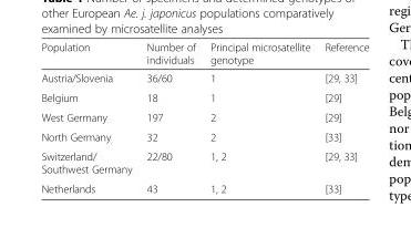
<table><thead><tr><td>Population</td><td>Number of individuals</td><td>Principal microsatellite genotype</td><td>Reference</td></tr></thead><tbody><tr><td>Austria/Slovenia</td><td>36/60</td><td>1</td><td>[29, 33]</td></tr><tr><td>Belgium</td><td>18</td><td>1</td><td>[29]</td></tr><tr><td>West Germany</td><td>197</td><td>2</td><td>[29]</td></tr><tr><td>North Germany</td><td>32</td><td>2</td><td>[33]</td></tr><tr><td>Switzerland/ Southwest Germany</td><td>22/80</td><td>1, 2</td><td>[29, 33]</td></tr><tr><td>Netherlands</td><td>43</td><td>1, 2</td><td>[33]</td></tr></tbody></table>